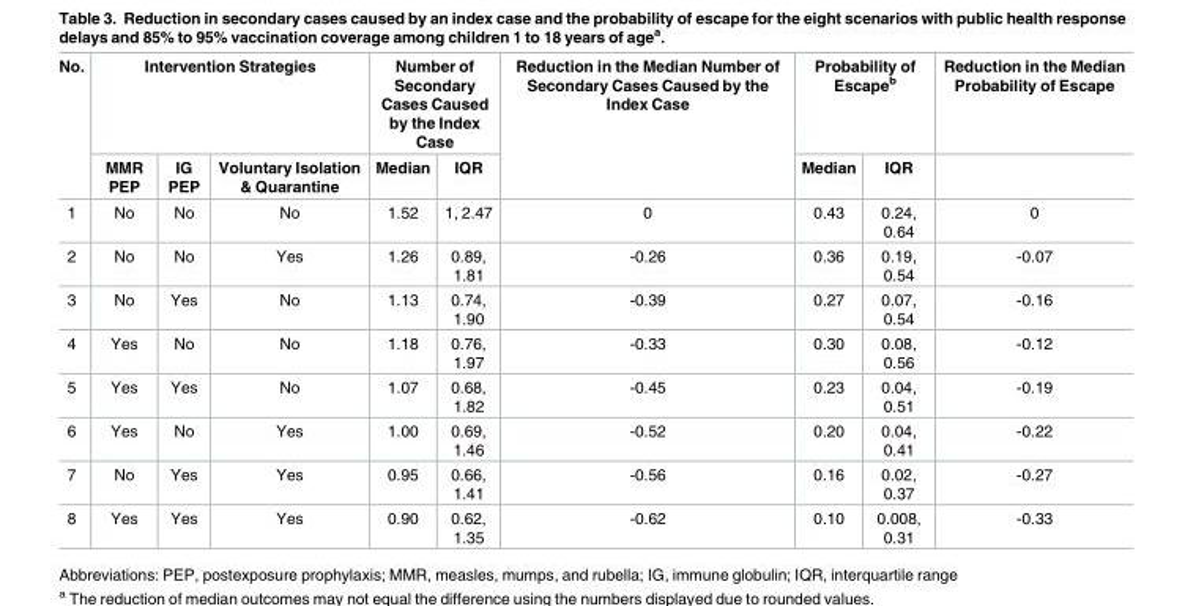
<table><thead><tr><td rowspan="2">No.</td><td colspan="3">Intervention Strategies</td><td colspan="2">Number of Secondary Cases Caused by the Index Case</td><td rowspan="2">Reduction in the Median Number of Secondary Cases Caused by the Index Case</td><td colspan="2">Probability of Escape<sup>b</sup></td><td rowspan="2">Reduction in the Median Probability of Escape</td></tr><tr><td>MMR PEP</td><td>IG PEP</td><td>Voluntary Isolation &amp; Quarantine</td><td>Median</td><td>IQR</td><td>Median</td><td>IQR</td></tr></thead><tbody><tr><td>1</td><td>No</td><td>No</td><td>No</td><td>1.52</td><td>1, 2.47</td><td>0</td><td>0.43</td><td>0.24, 0.64</td><td>0</td></tr><tr><td>2</td><td>No</td><td>No</td><td>Yes</td><td>1.26</td><td>0.89, 1.81</td><td>-0.26</td><td>0.36</td><td>0.19, 0.54</td><td>-0.07</td></tr><tr><td>3</td><td>No</td><td>Yes</td><td>No</td><td>1.13</td><td>0.74, 1.90</td><td>-0.39</td><td>0.27</td><td>0.07, 0.54</td><td>-0.16</td></tr><tr><td>4</td><td>Yes</td><td>No</td><td>No</td><td>1.18</td><td>0.76, 1.97</td><td>-0.33</td><td>0.30</td><td>0.08, 0.56</td><td>-0.12</td></tr><tr><td>5</td><td>Yes</td><td>Yes</td><td>No</td><td>1.07</td><td>0.68, 1.82</td><td>-0.45</td><td>0.23</td><td>0.04, 0.51</td><td>-0.19</td></tr><tr><td>6</td><td>Yes</td><td>No</td><td>Yes</td><td>1.00</td><td>0.69, 1.46</td><td>-0.52</td><td>0.20</td><td>0.04, 0.41</td><td>-0.22</td></tr><tr><td>7</td><td>No</td><td>Yes</td><td>Yes</td><td>0.95</td><td>0.66, 1.41</td><td>-0.56</td><td>0.16</td><td>0.02, 0.37</td><td>-0.27</td></tr><tr><td>8</td><td>Yes</td><td>Yes</td><td>Yes</td><td>0.90</td><td>0.62, 1.35</td><td>-0.62</td><td>0.10</td><td>0.008, 0.31</td><td>-0.33</td></tr></tbody></table>